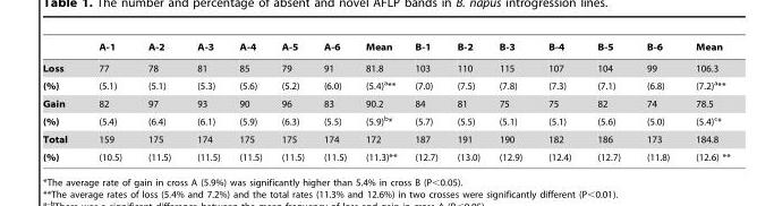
<table><thead><tr><td></td><td>A-1</td><td>A-2</td><td>A-3</td><td>A-4</td><td>A-5</td><td>A-6</td><td>Mean</td><td>B-1</td><td>B-2</td><td>B-3</td><td>B-4</td><td>B-5</td><td>B-6</td><td>Mean</td></tr></thead><tbody><tr><td>Loss</td><td>77</td><td>78</td><td>81</td><td>85</td><td>79</td><td>91</td><td>81.8</td><td>103</td><td>110</td><td>115</td><td>107</td><td>104</td><td>99</td><td>106.3</td></tr><tr><td>(%)</td><td>(5.1)</td><td>(5.1)</td><td>(5.3)</td><td>(5.6)</td><td>(5.2)</td><td>(6.0)</td><td>(5.4)<sup>a</sup>**</td><td>(7.0)</td><td>(7.5)</td><td>(7.8)</td><td>(7.3)</td><td>(7.1)</td><td>(6.8)</td><td>(7.2)<sup>a</sup>**</td></tr><tr><td>Gain</td><td>82</td><td>97</td><td>93</td><td>90</td><td>96</td><td>83</td><td>90.2</td><td>84</td><td>81</td><td>75</td><td>75</td><td>82</td><td>74</td><td>78.5</td></tr><tr><td>(%)</td><td>(5.4)</td><td>(6.4)</td><td>(6.1)</td><td>(5.9)</td><td>(6.3)</td><td>(5.5)</td><td>(5.9)<sup>b</sup>*</td><td>(5.7)</td><td>(5.5)</td><td>(5.1)</td><td>(5.1)</td><td>(5.6)</td><td>(5.0)</td><td>(5.4)<sup>c</sup>*</td></tr><tr><td>Total</td><td>159</td><td>175</td><td>174</td><td>175</td><td>175</td><td>174</td><td>172</td><td>187</td><td>191</td><td>190</td><td>182</td><td>186</td><td>173</td><td>184.8</td></tr><tr><td>(%)</td><td>(10.5)</td><td>(11.5)</td><td>(11.5)</td><td>(11.5)</td><td>(11.5)</td><td>(11.5)</td><td>(11.3)**</td><td>(12.7)</td><td>(13.0)</td><td>(12.9)</td><td>(12.4)</td><td>(12.7)</td><td>(11.8)</td><td>(12.6) **</td></tr></tbody></table>